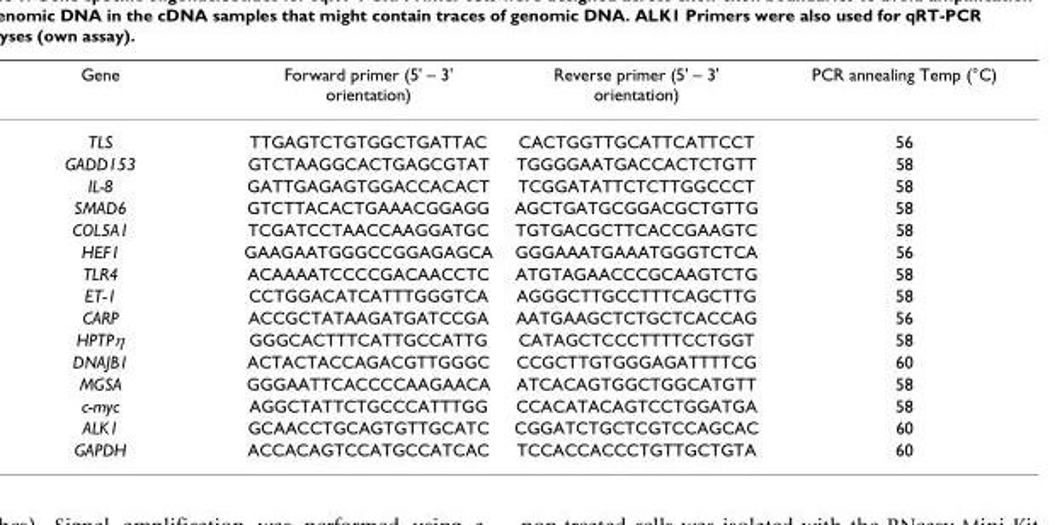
<table><thead><tr><td>Gene</td><td>Forward primer (5&#x27; – 3&#x27; orientation)</td><td>Reverse primer (5&#x27; – 3&#x27; orientation)</td><td>PCR annealing Temp (°C)</td></tr></thead><tbody><tr><td>TLS</td><td>TTGAGTCTGTGGCTGATTAC</td><td>CACTGGTTGCATTCATTCCT</td><td>56</td></tr><tr><td>GADD153</td><td>GTCTAAGGCACTGAGCGTAT</td><td>TGGGGAATGACCACTCTGTT</td><td>58</td></tr><tr><td>IL-8</td><td>GATTGAGAGTGGACCACACT</td><td>TCGGATATTCTCTTGGCCCT</td><td>58</td></tr><tr><td>SMAD6</td><td>GTCTTACACTGAAACGGAGG</td><td>AGCTGATGCGGACGCTGTTG</td><td>58</td></tr><tr><td>COL5A1</td><td>TCGATCCTAACCAAGGATGC</td><td>TGTGACGCTTCACCGAAGTC</td><td>58</td></tr><tr><td>HEF1</td><td>GAAGAATGGGCCGGAGAGCA</td><td>GGGAAATGAAATGGGTCTCA</td><td>56</td></tr><tr><td>TLR4</td><td>ACAAAATCCCCGACAACCTC</td><td>ATGTAGAACCCGCAAGTCTG</td><td>58</td></tr><tr><td>ET-1</td><td>CCTGGACATCATTTGGGTCA</td><td>AGGGCTTGCCTTTCAGCTTG</td><td>58</td></tr><tr><td>CARP</td><td>ACCGCTATAAGATGATCCGA</td><td>AATGAAGCTCTGCTCACCAG</td><td>56</td></tr><tr><td>HPTPη</td><td>GGGCACTTTCATTGCCATTG</td><td>CATAGCTCCCTTTTCCTGGT</td><td>58</td></tr><tr><td>DNAJB1</td><td>ACTACTACCAGACGTTGGGC</td><td>CCGCTTGTGGGAGATTTTCG</td><td>60</td></tr><tr><td>MGSA</td><td>GGGAATTCACCCCAAGAACA</td><td>ATCACAGTGGCTGGCATGTT</td><td>58</td></tr><tr><td>c-myc</td><td>AGGCTATTCTGCCCATTTGG</td><td>CCACATACAGTCCTGGATGA</td><td>58</td></tr><tr><td>ALK1</td><td>GCAACCTGCAGTGTTGCATC</td><td>CGGATCTGCTCGTCCAGCAC</td><td>60</td></tr><tr><td>GAPDH</td><td>ACCACAGTCCATGCCATCAC</td><td>TCCACCACCCTGTTGCTGTA</td><td>60</td></tr></tbody></table>